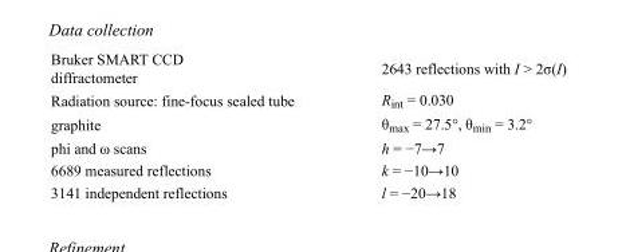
<table><tbody><tr><td>Bruker SMART CCD diffractometer</td><td>2643 reflections with I &gt; 2σ(I)</td></tr><tr><td>Radiation source: fine-focus sealed tube</td><td>R<sub>int</sub> = 0.030</td></tr><tr><td>graphite</td><td>θ<sub>max</sub> = 27.5°, θ<sub>min</sub> = 3.2°</td></tr><tr><td>phi and ω scans</td><td>h = −7→7</td></tr><tr><td>6689 measured reflections</td><td>k = −10→10</td></tr><tr><td>3141 independent reflections</td><td>l = −20→18</td></tr></tbody></table>